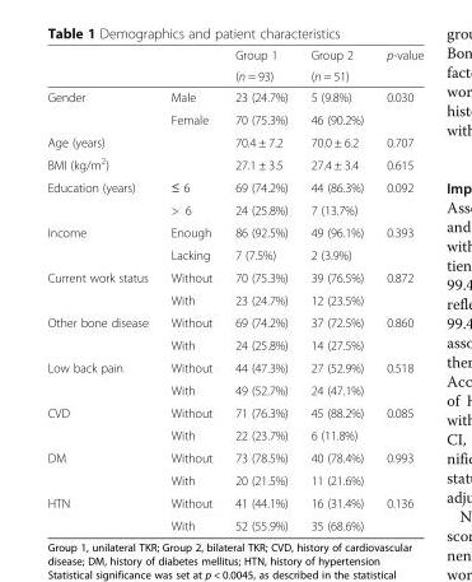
<table><thead><tr><td rowspan="2"></td><td rowspan="2"></td><td rowspan="2">Group 1 (n = 93)</td><td rowspan="2">Group 2 (n = 51)</td><td rowspan="2">p-value</td></tr><tr></tr></thead><tbody><tr><td rowspan="2">Gender</td><td>Male</td><td>23 (24.7%)</td><td>5 (9.8%)</td><td>0.030</td></tr><tr><td>Female</td><td>70 (75.3%)</td><td>46 (90.2%)</td><td></td></tr><tr><td>Age (years)</td><td></td><td>70.4 ± 7.2</td><td>70.0 ± 6.2</td><td>0.707</td></tr><tr><td>BMI (kg/m<sup>2</sup>)</td><td></td><td>27.1 ± 3.5</td><td>27.4 ± 3.4</td><td>0.615</td></tr><tr><td rowspan="2">Education (years)</td><td>≤ 6</td><td>69 (74.2%)</td><td>44 (86.3%)</td><td>0.092</td></tr><tr><td>&gt; 6</td><td>24 (25.8%)</td><td>7 (13.7%)</td><td></td></tr><tr><td rowspan="2">Income</td><td>Enough</td><td>86 (92.5%)</td><td>49 (96.1%)</td><td>0.393</td></tr><tr><td>Lacking</td><td>7 (7.5%)</td><td>2 (3.9%)</td><td></td></tr><tr><td rowspan="2">Current work status</td><td>Without</td><td>70 (75.3%)</td><td>39 (76.5%)</td><td>0.872</td></tr><tr><td>With</td><td>23 (24.7%)</td><td>12 (23.5%)</td><td></td></tr><tr><td rowspan="2">Other bone disease</td><td>Without</td><td>69 (74.2%)</td><td>37 (72.5%)</td><td>0.860</td></tr><tr><td>With</td><td>24 (25.8%)</td><td>14 (27.5%)</td><td></td></tr><tr><td rowspan="2">Low back pain</td><td>Without</td><td>44 (47.3%)</td><td>27 (52.9%)</td><td>0.518</td></tr><tr><td>With</td><td>49 (52.7%)</td><td>24 (47.1%)</td><td></td></tr><tr><td rowspan="2">CVD</td><td>Without</td><td>71 (76.3%)</td><td>45 (88.2%)</td><td>0.085</td></tr><tr><td>With</td><td>22 (23.7%)</td><td>6 (11.8%)</td><td></td></tr><tr><td rowspan="2">DM</td><td>Without</td><td>73 (78.5%)</td><td>40 (78.4%)</td><td>0.993</td></tr><tr><td>With</td><td>20 (21.5%)</td><td>11 (21.6%)</td><td></td></tr><tr><td rowspan="2">HTN</td><td>Without</td><td>41 (44.1%)</td><td>16 (31.4%)</td><td>0.136</td></tr><tr><td>With</td><td>52 (55.9%)</td><td>35 (68.6%)</td><td></td></tr></tbody></table>